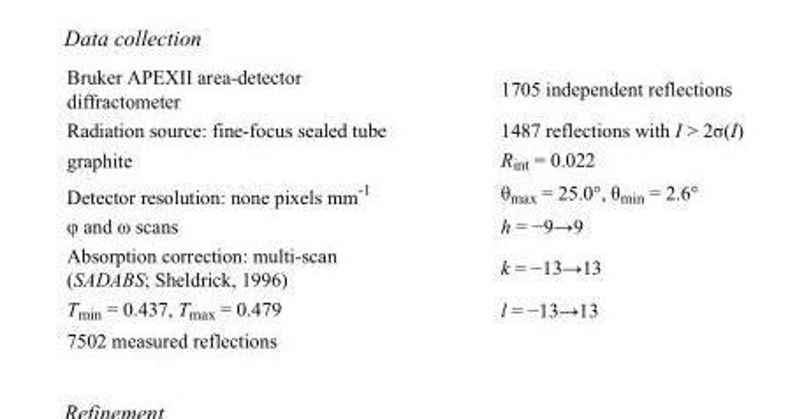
<table><tbody><tr><td>Bruker APEXII area-detector diffractometer</td><td>1705 independent reflections</td></tr><tr><td>Radiation source: fine-focus sealed tube</td><td>1487 reflections with I &gt; 2σ(I)</td></tr><tr><td>graphite</td><td>R<sub>int</sub> = 0.022</td></tr><tr><td>Detector resolution: none pixels mm<sup>-1</sup></td><td>θ<sub>max</sub> = 25.0°, θ<sub>min</sub> = 2.6°</td></tr><tr><td>φ and ω scans</td><td>h = −9→9</td></tr><tr><td>Absorption correction: multi-scan (SADABS; Sheldrick, 1996)</td><td>k = −13→13</td></tr><tr><td>T<sub>min</sub> = 0.437, T<sub>max</sub> = 0.479</td><td>l = −13→13</td></tr><tr><td>7502 measured reflections</td><td></td></tr></tbody></table>